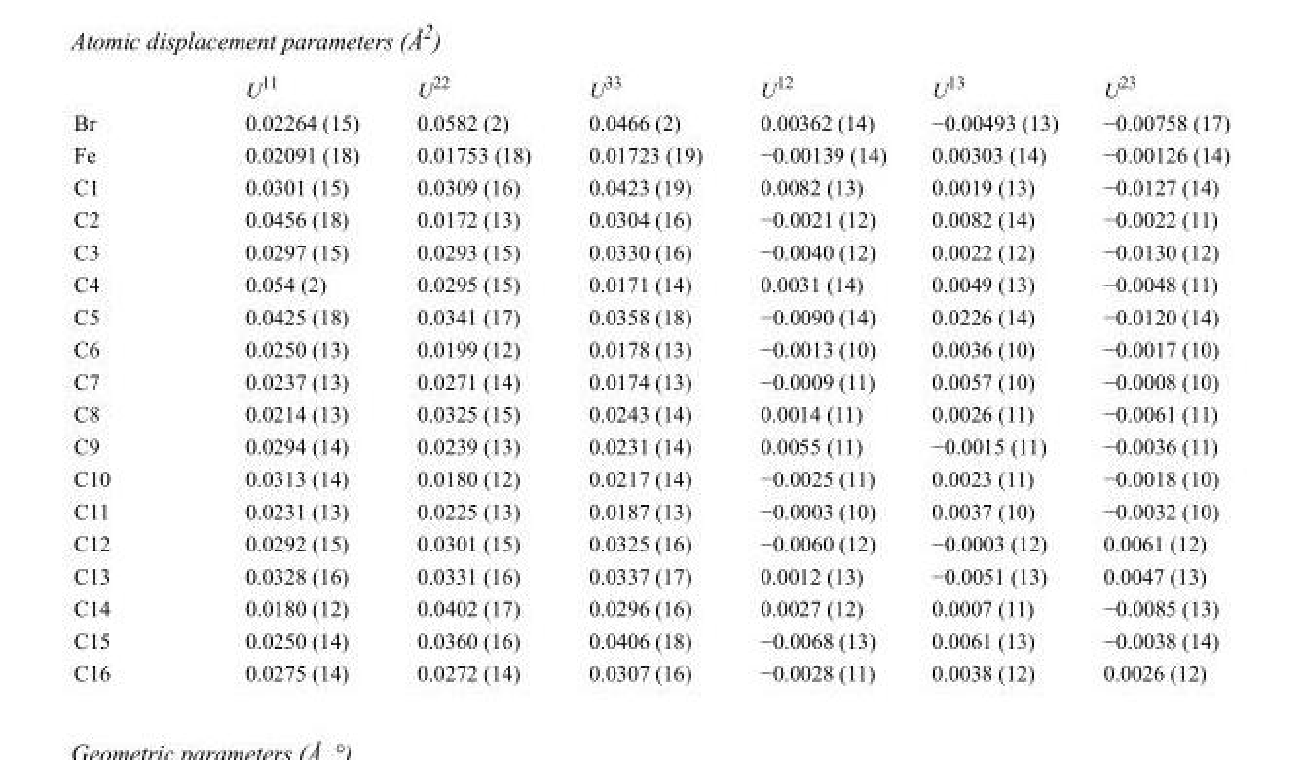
<table><thead><tr><td></td><td>U<sup>11</sup></td><td>U<sup>22</sup></td><td>U<sup>33</sup></td><td>U<sup>12</sup></td><td>U<sup>13</sup></td><td>U<sup>23</sup></td></tr></thead><tbody><tr><td>Br</td><td>0.02264 (15)</td><td>0.0582 (2)</td><td>0.0466 (2)</td><td>0.00362 (14)</td><td>−0.00493 (13)</td><td>−0.00758 (17)</td></tr><tr><td>Fe</td><td>0.02091 (18)</td><td>0.01753 (18)</td><td>0.01723 (19)</td><td>−0.00139 (14)</td><td>0.00303 (14)</td><td>−0.00126 (14)</td></tr><tr><td>C1</td><td>0.0301 (15)</td><td>0.0309 (16)</td><td>0.0423 (19)</td><td>0.0082 (13)</td><td>0.0019 (13)</td><td>−0.0127 (14)</td></tr><tr><td>C2</td><td>0.0456 (18)</td><td>0.0172 (13)</td><td>0.0304 (16)</td><td>−0.0021 (12)</td><td>0.0082 (14)</td><td>−0.0022 (11)</td></tr><tr><td>C3</td><td>0.0297 (15)</td><td>0.0293 (15)</td><td>0.0330 (16)</td><td>−0.0040 (12)</td><td>0.0022 (12)</td><td>−0.0130 (12)</td></tr><tr><td>C4</td><td>0.054 (2)</td><td>0.0295 (15)</td><td>0.0171 (14)</td><td>0.0031 (14)</td><td>0.0049 (13)</td><td>−0.0048 (11)</td></tr><tr><td>C5</td><td>0.0425 (18)</td><td>0.0341 (17)</td><td>0.0358 (18)</td><td>−0.0090 (14)</td><td>0.0226 (14)</td><td>−0.0120 (14)</td></tr><tr><td>C6</td><td>0.0250 (13)</td><td>0.0199 (12)</td><td>0.0178 (13)</td><td>−0.0013 (10)</td><td>0.0036 (10)</td><td>−0.0017 (10)</td></tr><tr><td>C7</td><td>0.0237 (13)</td><td>0.0271 (14)</td><td>0.0174 (13)</td><td>−0.0009 (11)</td><td>0.0057 (10)</td><td>−0.0008 (10)</td></tr><tr><td>C8</td><td>0.0214 (13)</td><td>0.0325 (15)</td><td>0.0243 (14)</td><td>0.0014 (11)</td><td>0.0026 (11)</td><td>−0.0061 (11)</td></tr><tr><td>C9</td><td>0.0294 (14)</td><td>0.0239 (13)</td><td>0.0231 (14)</td><td>0.0055 (11)</td><td>−0.0015 (11)</td><td>−0.0036 (11)</td></tr><tr><td>C10</td><td>0.0313 (14)</td><td>0.0180 (12)</td><td>0.0217 (14)</td><td>−0.0025 (11)</td><td>0.0023 (11)</td><td>−0.0018 (10)</td></tr><tr><td>C11</td><td>0.0231 (13)</td><td>0.0225 (13)</td><td>0.0187 (13)</td><td>−0.0003 (10)</td><td>0.0037 (10)</td><td>−0.0032 (10)</td></tr><tr><td>C12</td><td>0.0292 (15)</td><td>0.0301 (15)</td><td>0.0325 (16)</td><td>−0.0060 (12)</td><td>−0.0003 (12)</td><td>0.0061 (12)</td></tr><tr><td>C13</td><td>0.0328 (16)</td><td>0.0331 (16)</td><td>0.0337 (17)</td><td>0.0012 (13)</td><td>−0.0051 (13)</td><td>0.0047 (13)</td></tr><tr><td>C14</td><td>0.0180 (12)</td><td>0.0402 (17)</td><td>0.0296 (16)</td><td>0.0027 (12)</td><td>0.0007 (11)</td><td>−0.0085 (13)</td></tr><tr><td>C15</td><td>0.0250 (14)</td><td>0.0360 (16)</td><td>0.0406 (18)</td><td>−0.0068 (13)</td><td>0.0061 (13)</td><td>−0.0038 (14)</td></tr><tr><td>C16</td><td>0.0275 (14)</td><td>0.0272 (14)</td><td>0.0307 (16)</td><td>−0.0028 (11)</td><td>0.0038 (12)</td><td>0.0026 (12)</td></tr></tbody></table>